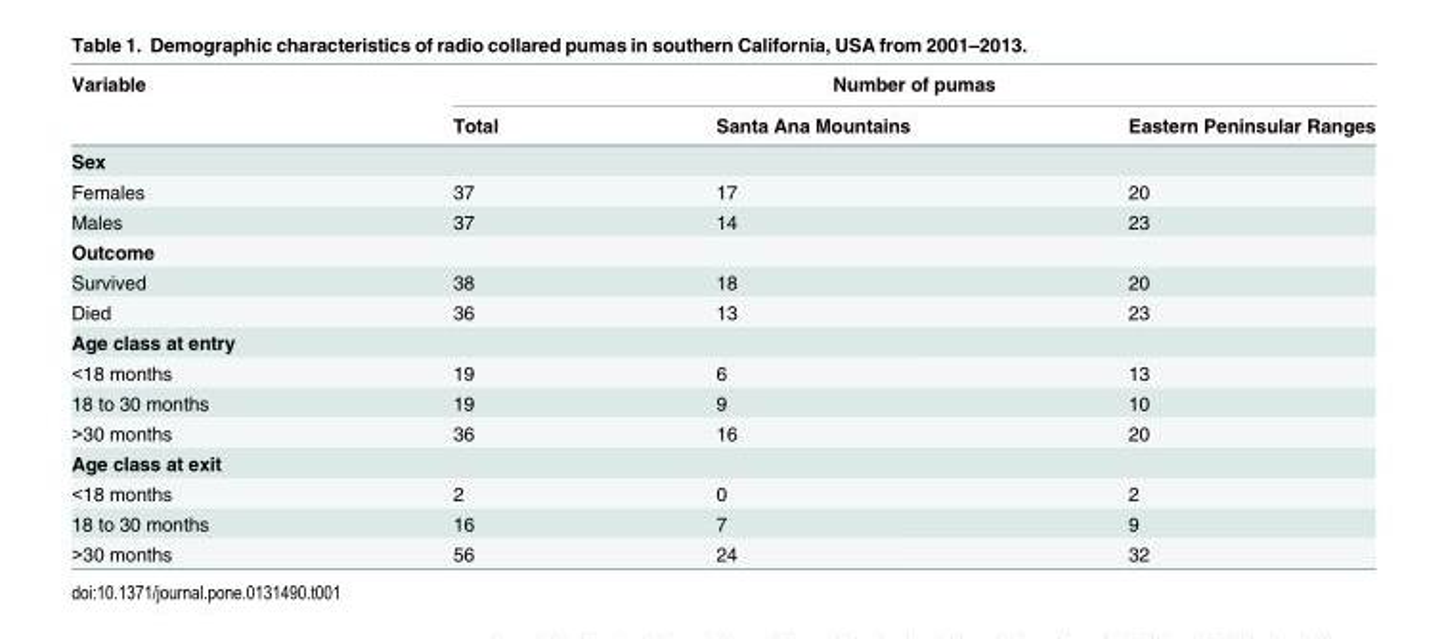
<table><thead><tr><td rowspan="2">Variable</td><td colspan="3">Number of pumas</td></tr><tr><td>Total</td><td>Santa Ana Mountains</td><td>Eastern Peninsular Ranges</td></tr></thead><tbody><tr><td colspan="4">Sex</td></tr><tr><td>Females</td><td>37</td><td>17</td><td>20</td></tr><tr><td>Males</td><td>37</td><td>14</td><td>23</td></tr><tr><td colspan="4">Outcome</td></tr><tr><td>Survived</td><td>38</td><td>18</td><td>20</td></tr><tr><td>Died</td><td>36</td><td>13</td><td>23</td></tr><tr><td colspan="4">Age class at entry</td></tr><tr><td>&lt;18 months</td><td>19</td><td>6</td><td>13</td></tr><tr><td>18 to 30 months</td><td>19</td><td>9</td><td>10</td></tr><tr><td>&gt;30 months</td><td>36</td><td>16</td><td>20</td></tr><tr><td colspan="4">Age class at exit</td></tr><tr><td>&lt;18 months</td><td>2</td><td>0</td><td>2</td></tr><tr><td>18 to 30 months</td><td>16</td><td>7</td><td>9</td></tr><tr><td>&gt;30 months</td><td>56</td><td>24</td><td>32</td></tr></tbody></table>